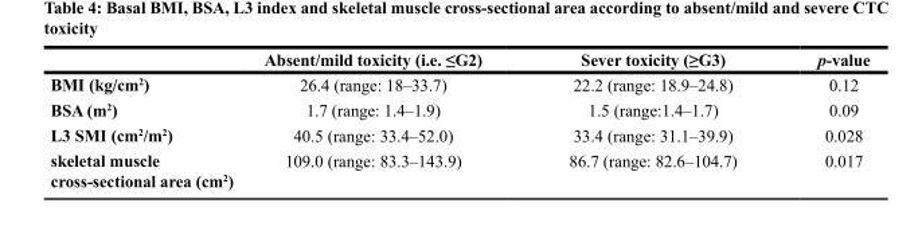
<table><thead><tr><td></td><td>Absent/mild toxicity (i.e. ≤G2)</td><td>Sever toxicity (≥G3)</td><td>p-value</td></tr></thead><tbody><tr><td>BMI (kg/cm<sup>2</sup>)</td><td>26.4 (range: 18–33.7)</td><td>22.2 (range: 18.9–24.8)</td><td>0.12</td></tr><tr><td>BSA (m<sup>2</sup>)</td><td>1.7 (range: 1.4–1.9)</td><td>1.5 (range:1.4–1.7)</td><td>0.09</td></tr><tr><td>L3 SMI (cm<sup>2</sup>/m<sup>2</sup>)</td><td>40.5 (range: 33.4–52.0)</td><td>33.4 (range: 31.1–39.9)</td><td>0.028</td></tr><tr><td>skeletal muscle cross-sectional area (cm<sup>2</sup>)</td><td>109.0 (range: 83.3–143.9)</td><td>86.7 (range: 82.6–104.7)</td><td>0.017</td></tr></tbody></table>